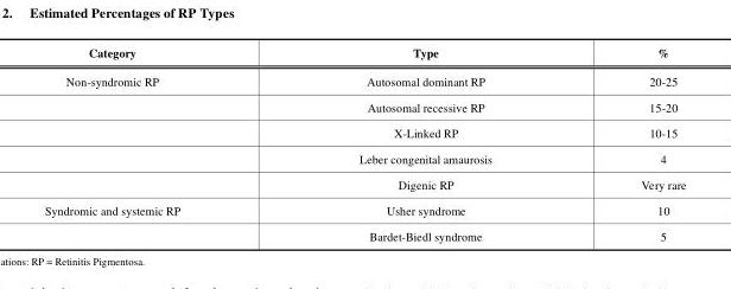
<table><thead><tr><td>Category</td><td>Type</td><td>%</td></tr></thead><tbody><tr><td rowspan="5">Non-syndromic RP</td><td>Autosomal dominant RP</td><td>20-25</td></tr><tr><td>Autosomal recessive RP</td><td>15-20</td></tr><tr><td>X-Linked RP</td><td>10-15</td></tr><tr><td>Leber congenital amaurosis</td><td>4</td></tr><tr><td>Digenic RP</td><td>Very rare</td></tr><tr><td rowspan="2">Syndromic and systemic RP</td><td>Usher syndrome</td><td>10</td></tr><tr><td>Bardet-Biedl syndrome</td><td>5</td></tr></tbody></table>